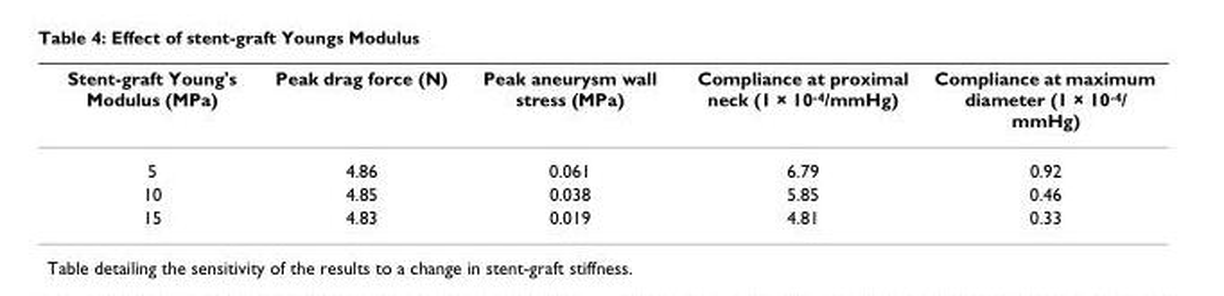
<table><thead><tr><td>Stent-graft Young&#x27;s Modulus (MPa)</td><td>Peak drag force (N)</td><td>Peak aneurysm wall stress (MPa)</td><td>Compliance at proximal neck (1 × 10<sup>-4</sup>/mmHg)</td><td>Compliance at maximum diameter (1 × 10<sup>-4</sup>/ mmHg)</td></tr></thead><tbody><tr><td>5</td><td>4.86</td><td>0.061</td><td>6.79</td><td>0.92</td></tr><tr><td>10</td><td>4.85</td><td>0.038</td><td>5.85</td><td>0.46</td></tr><tr><td>15</td><td>4.83</td><td>0.019</td><td>4.81</td><td>0.33</td></tr></tbody></table>